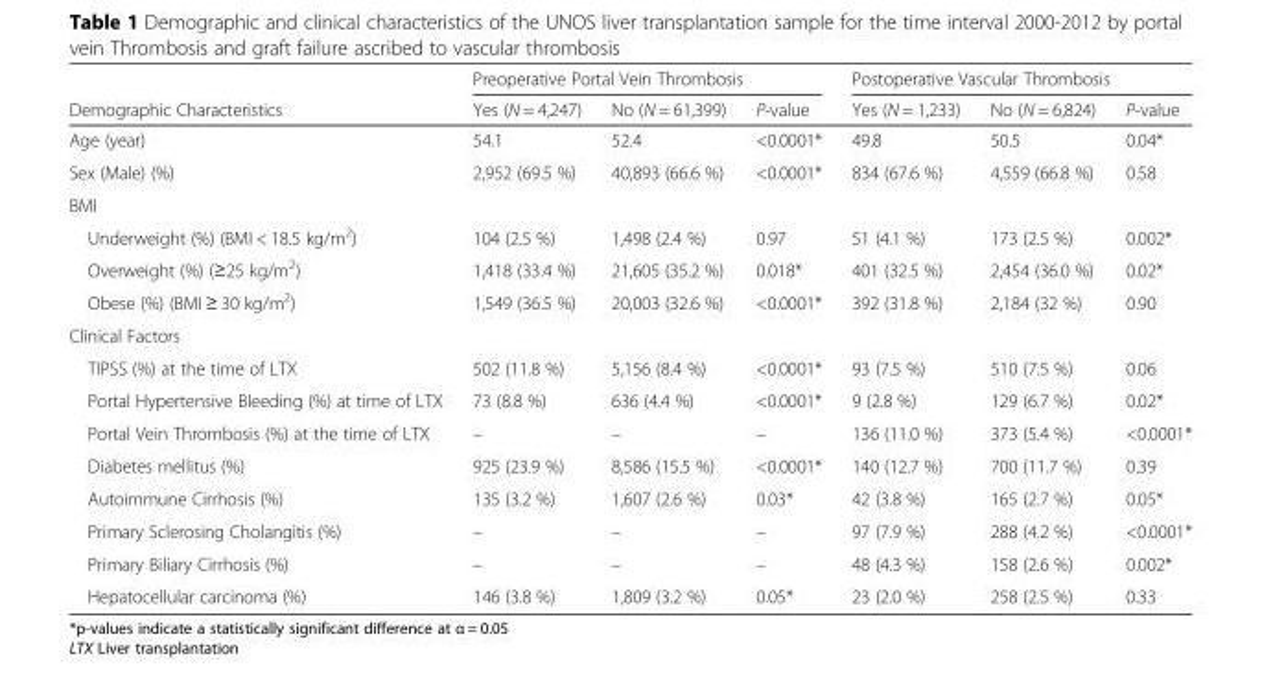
<table><thead><tr><td rowspan="2">Demographic Characteristics</td><td colspan="3">Preoperative Portal Vein Thrombosis</td><td colspan="3">Postoperative Vascular Thrombosis</td></tr><tr><td>Yes (N = 4,247)</td><td>No (N = 61,399)</td><td>P-value</td><td>Yes (N = 1,233)</td><td>No (N = 6,824)</td><td>P-value</td></tr></thead><tbody><tr><td>Age (year)</td><td>54.1</td><td>52.4</td><td>&lt;0.0001*</td><td>49.8</td><td>50.5</td><td>0.04*</td></tr><tr><td>Sex (Male) (%)</td><td>2,952 (69.5 %)</td><td>40,893 (66.6 %)</td><td>&lt;0.0001*</td><td>834 (67.6 %)</td><td>4,559 (66.8 %)</td><td>0.58</td></tr><tr><td colspan="7">BMI</td></tr><tr><td>Underweight (%) (BMI &lt; 18.5 kg/m<sup>2</sup>)</td><td>104 (2.5 %)</td><td>1,498 (2.4 %)</td><td>0.97</td><td>51 (4.1 %)</td><td>173 (2.5 %)</td><td>0.002*</td></tr><tr><td>Overweight (%) (≥25 kg/m<sup>2</sup>)</td><td>1,418 (33.4 %)</td><td>21,605 (35.2 %)</td><td>0.018*</td><td>401 (32.5 %)</td><td>2,454 (36.0 %)</td><td>0.02*</td></tr><tr><td>Obese (%) (BMI ≥ 30 kg/m<sup>2</sup>)</td><td>1,549 (36.5 %)</td><td>20,003 (32.6 %)</td><td>&lt;0.0001*</td><td>392 (31.8 %)</td><td>2,184 (32 %)</td><td>0.90</td></tr><tr><td colspan="7">Clinical Factors</td></tr><tr><td>TIPSS (%) at the time of LTX</td><td>502 (11.8 %)</td><td>5,156 (8.4 %)</td><td>&lt;0.0001*</td><td>93 (7.5 %)</td><td>510 (7.5 %)</td><td>0.06</td></tr><tr><td>Portal Hypertensive Bleeding (%) at time of LTX</td><td>73 (8.8 %)</td><td>636 (4.4 %)</td><td>&lt;0.0001*</td><td>9 (2.8 %)</td><td>129 (6.7 %)</td><td>0.02*</td></tr><tr><td>Portal Vein Thrombosis (%) at the time of LTX</td><td>–</td><td>–</td><td>–</td><td>136 (11.0 %)</td><td>373 (5.4 %)</td><td>&lt;0.0001*</td></tr><tr><td>Diabetes mellitus (%)</td><td>925 (23.9 %)</td><td>8,586 (15.5 %)</td><td>&lt;0.0001*</td><td>140 (12.7 %)</td><td>700 (11.7 %)</td><td>0.39</td></tr><tr><td>Autoimmune Cirrhosis (%)</td><td>135 (3.2 %)</td><td>1,607 (2.6 %)</td><td>0.03*</td><td>42 (3.8 %)</td><td>165 (2.7 %)</td><td>0.05*</td></tr><tr><td>Primary Sclerosing Cholangitis (%)</td><td>–</td><td>–</td><td>–</td><td>97 (7.9 %)</td><td>288 (4.2 %)</td><td>&lt;0.0001*</td></tr><tr><td>Primary Biliary Cirrhosis (%)</td><td>–</td><td>–</td><td>–</td><td>48 (4.3 %)</td><td>158 (2.6 %)</td><td>0.002*</td></tr><tr><td>Hepatocellular carcinoma (%)</td><td>146 (3.8 %)</td><td>1,809 (3.2 %)</td><td>0.05*</td><td>23 (2.0 %)</td><td>258 (2.5 %)</td><td>0.33</td></tr></tbody></table>